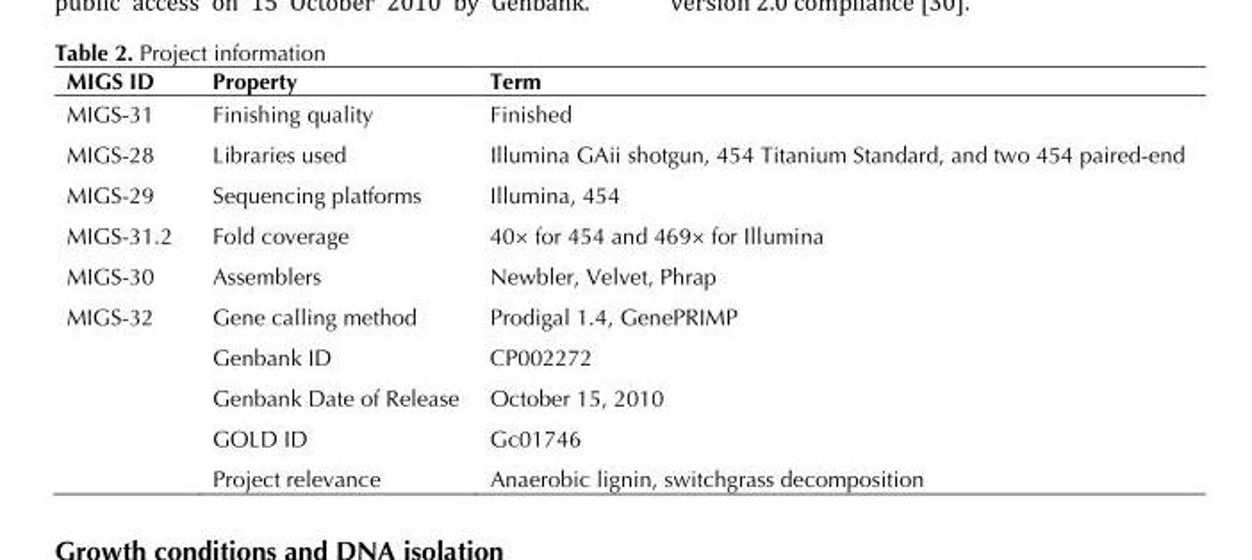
<table><thead><tr><td>MIGS ID</td><td>Property</td><td>Term</td></tr></thead><tbody><tr><td>MIGS-31</td><td>Finishing quality</td><td>Finished</td></tr><tr><td>MIGS-28</td><td>Libraries used</td><td>Illumina GAii shotgun, 454 Titanium Standard, and two 454 paired-end</td></tr><tr><td>MIGS-29</td><td>Sequencing platforms</td><td>Illumina, 454</td></tr><tr><td>MIGS-31.2</td><td>Fold coverage</td><td>40× for 454 and 469× for Illumina</td></tr><tr><td>MIGS-30</td><td>Assemblers</td><td>Newbler, Velvet, Phrap</td></tr><tr><td rowspan="5">MIGS-32</td><td>Gene calling method</td><td>Prodigal 1.4, GenePRIMP</td></tr><tr><td>Genbank ID</td><td>CP002272</td></tr><tr><td>Genbank Date of Release</td><td>October 15, 2010</td></tr><tr><td>GOLD ID</td><td>Gc01746</td></tr><tr><td>Project relevance</td><td>Anaerobic lignin, switchgrass decomposition</td></tr></tbody></table>